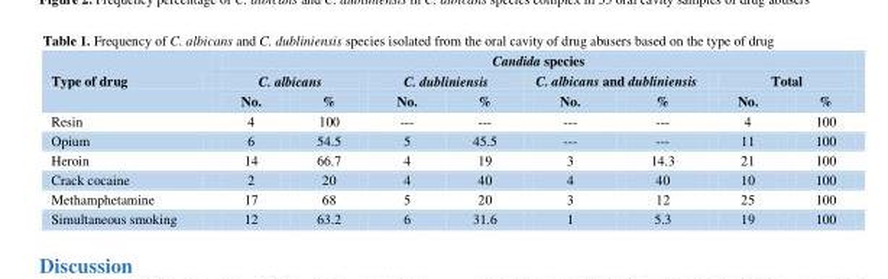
<table><thead><tr><td rowspan="3">Type of drug</td><td colspan="8">Candida species</td></tr><tr><td colspan="2">C. albicans</td><td colspan="2">C. dubliniensis</td><td colspan="2">C. albicans and dubliniensis</td><td colspan="2">Total</td></tr><tr><td>No.</td><td>%</td><td>No.</td><td>%</td><td>No.</td><td>%</td><td>No.</td><td>%</td></tr></thead><tbody><tr><td>Resin</td><td>4</td><td>100</td><td>---</td><td>---</td><td>---</td><td>---</td><td>4</td><td>100</td></tr><tr><td>Opium</td><td>6</td><td>54.5</td><td>5</td><td>45.5</td><td>---</td><td>---</td><td>11</td><td>100</td></tr><tr><td>Heroin</td><td>14</td><td>66.7</td><td>4</td><td>19</td><td>3</td><td>14.3</td><td>21</td><td>100</td></tr><tr><td>Crack cocaine</td><td>2</td><td>20</td><td>4</td><td>40</td><td>4</td><td>40</td><td>10</td><td>100</td></tr><tr><td>Methamphetamine</td><td>17</td><td>68</td><td>5</td><td>20</td><td>3</td><td>12</td><td>25</td><td>100</td></tr><tr><td>Simultaneous smoking</td><td>12</td><td>63.2</td><td>6</td><td>31.6</td><td>1</td><td>5.3</td><td>19</td><td>100</td></tr></tbody></table>